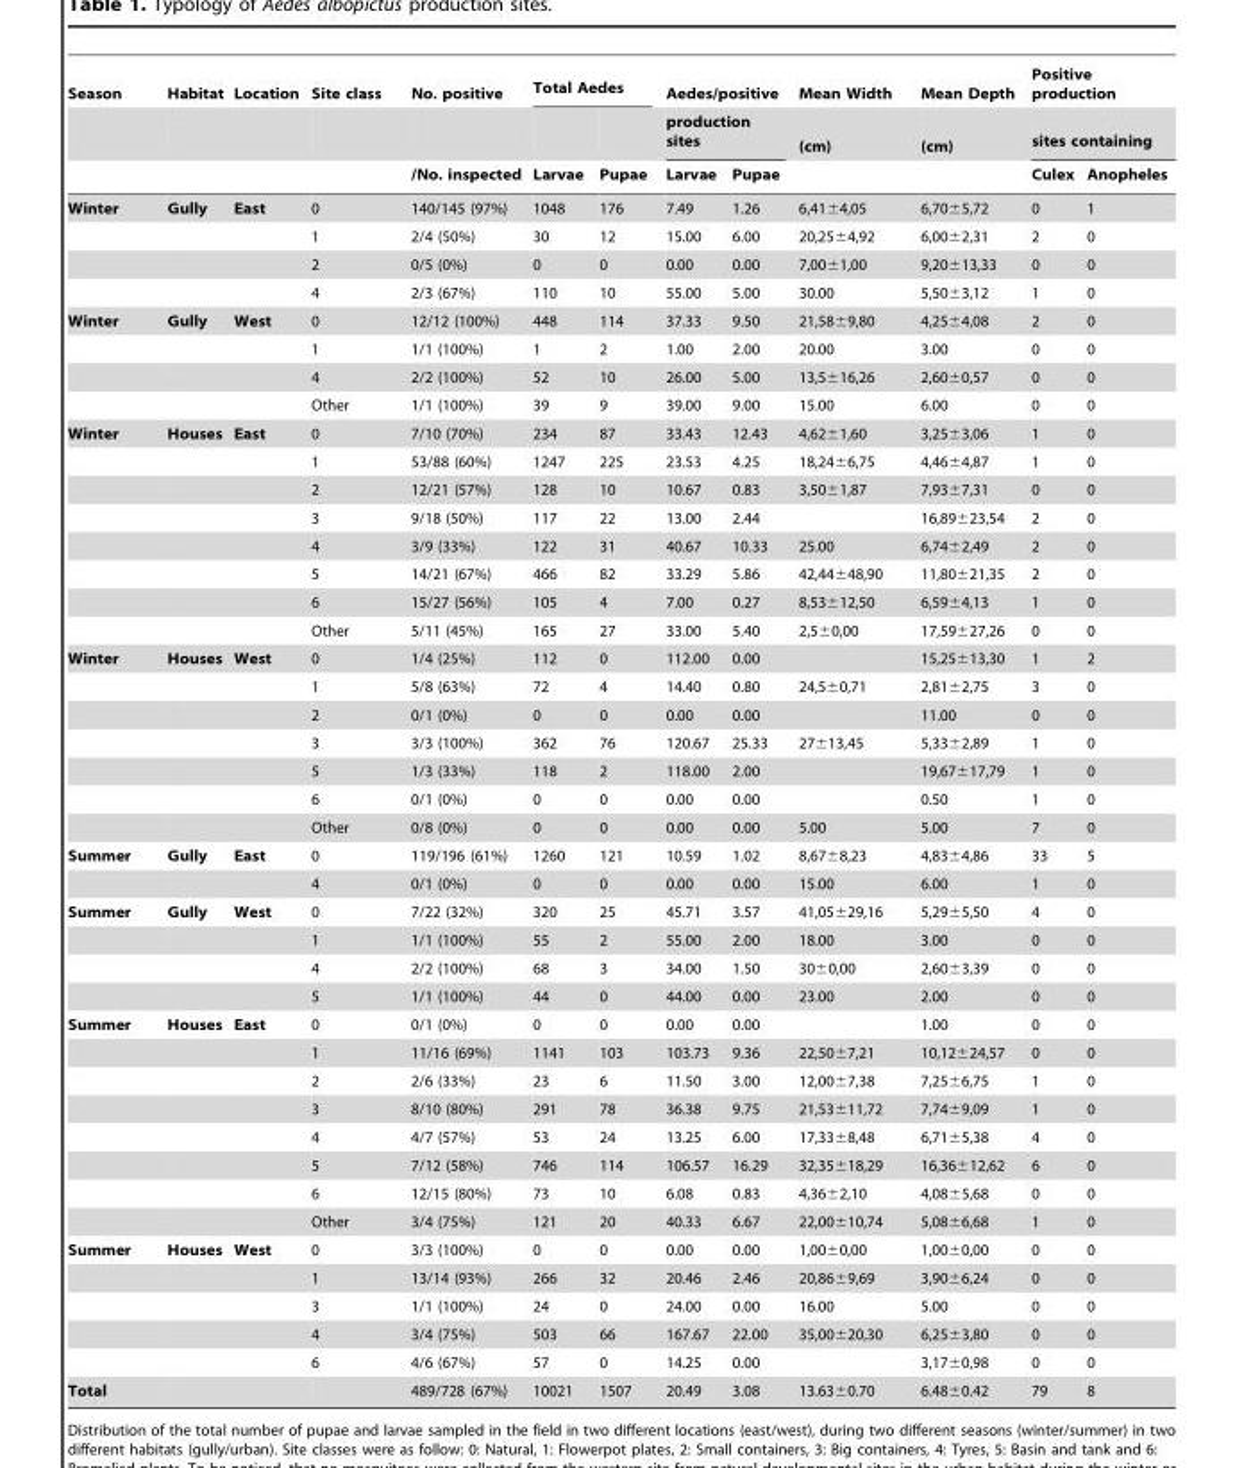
<table><thead><tr><td rowspan="3">Season</td><td rowspan="3">Habitat</td><td rowspan="3">Location</td><td rowspan="3">Site class</td><td rowspan="3">No. positive /No. inspected</td><td colspan="2">Total Aedes</td><td rowspan="2" colspan="2">Aedes/positive production sites</td><td rowspan="3">Mean Width (cm)</td><td rowspan="3">Mean Depth (cm)</td><td rowspan="2" colspan="2">Positive production sites containing</td></tr><tr><td rowspan="2">Larvae</td><td rowspan="2">Pupae</td></tr><tr><td>Larvae</td><td>Pupae</td><td>Culex</td><td>Anopheles</td></tr></thead><tbody><tr><td rowspan="4">Winter</td><td>Gully</td><td>East</td><td>0</td><td>140/145 (97%)</td><td>1048</td><td>176</td><td>7.49</td><td>1.26</td><td>6,41±4,05</td><td>6,70±5,72</td><td>0</td><td>1</td></tr><tr><td></td><td></td><td>1</td><td>2/4 (50%)</td><td>30</td><td>12</td><td>15.00</td><td>6.00</td><td>20,25±4,92</td><td>6,00±2,31</td><td>2</td><td>0</td></tr><tr><td></td><td></td><td>2</td><td>0/5 (0%)</td><td>0</td><td>0</td><td>0.00</td><td>0.00</td><td>7,00±1,00</td><td>9,20±13,33</td><td>0</td><td>0</td></tr><tr><td></td><td></td><td>4</td><td>2/3 (67%)</td><td>110</td><td>10</td><td>55.00</td><td>5.00</td><td>30.00</td><td>5,50±3,12</td><td>1</td><td>0</td></tr><tr><td rowspan="4">Winter</td><td>Gully</td><td>West</td><td>0</td><td>12/12 (100%)</td><td>448</td><td>114</td><td>37.33</td><td>9.50</td><td>21,58±9,80</td><td>4,25±4,08</td><td>2</td><td>0</td></tr><tr><td></td><td></td><td>1</td><td>1/1 (100%)</td><td>1</td><td>2</td><td>1.00</td><td>2.00</td><td>20.00</td><td>3.00</td><td>0</td><td>0</td></tr><tr><td></td><td></td><td>4</td><td>2/2 (100%)</td><td>52</td><td>10</td><td>26.00</td><td>5.00</td><td>13,5±16,26</td><td>2,60±0,57</td><td>0</td><td>0</td></tr><tr><td></td><td></td><td>Other</td><td>1/1 (100%)</td><td>39</td><td>9</td><td>39.00</td><td>9.00</td><td>15.00</td><td>6.00</td><td>0</td><td>0</td></tr><tr><td rowspan="8">Winter</td><td>Houses</td><td>East</td><td>0</td><td>7/10 (70%)</td><td>234</td><td>87</td><td>33.43</td><td>12.43</td><td>4,62±1,60</td><td>3,25±3,06</td><td>1</td><td>0</td></tr><tr><td></td><td></td><td>1</td><td>53/88 (60%)</td><td>1247</td><td>225</td><td>23.53</td><td>4.25</td><td>18,24±6,75</td><td>4,46±4,87</td><td>1</td><td>0</td></tr><tr><td></td><td></td><td>2</td><td>12/21 (57%)</td><td>128</td><td>10</td><td>10.67</td><td>0.83</td><td>3,50±1,87</td><td>7,93±7,31</td><td>0</td><td>0</td></tr><tr><td></td><td></td><td>3</td><td>9/18 (50%)</td><td>117</td><td>22</td><td>13.00</td><td>2.44</td><td></td><td>16,89±23,54</td><td>2</td><td>0</td></tr><tr><td></td><td></td><td>4</td><td>3/9 (33%)</td><td>122</td><td>31</td><td>40.67</td><td>10.33</td><td>25.00</td><td>6,74±2,49</td><td>2</td><td>0</td></tr><tr><td></td><td></td><td>5</td><td>14/21 (67%)</td><td>466</td><td>82</td><td>33.29</td><td>5.86</td><td>42,44±48,90</td><td>11,80±21,35</td><td>2</td><td>0</td></tr><tr><td></td><td></td><td>6</td><td>15/27 (56%)</td><td>105</td><td>4</td><td>7.00</td><td>0.27</td><td>8,53±12,50</td><td>6,59±4,13</td><td>1</td><td>0</td></tr><tr><td></td><td></td><td>Other</td><td>5/11 (45%)</td><td>165</td><td>27</td><td>33.00</td><td>5.40</td><td>2,5±0,00</td><td>17,59±27,26</td><td>0</td><td>0</td></tr><tr><td rowspan="7">Winter</td><td>Houses</td><td>West</td><td>0</td><td>1/4 (25%)</td><td>112</td><td>0</td><td>112.00</td><td>0.00</td><td></td><td>15,25±13,30</td><td>1</td><td>2</td></tr><tr><td></td><td></td><td>1</td><td>5/8 (63%)</td><td>72</td><td>4</td><td>14.40</td><td>0.80</td><td>24,5±0,71</td><td>2,81±2,75</td><td>3</td><td>0</td></tr><tr><td></td><td></td><td>2</td><td>0/1 (0%)</td><td>0</td><td>0</td><td>0.00</td><td>0.00</td><td></td><td>11.00</td><td>0</td><td>0</td></tr><tr><td></td><td></td><td>3</td><td>3/3 (100%)</td><td>362</td><td>76</td><td>120.67</td><td>25.33</td><td>27±13,45</td><td>5,33±2,89</td><td>1</td><td>0</td></tr><tr><td></td><td></td><td>5</td><td>1/3 (33%)</td><td>118</td><td>2</td><td>118.00</td><td>2.00</td><td></td><td>19,67±17,79</td><td>1</td><td>0</td></tr><tr><td></td><td></td><td>6</td><td>0/1 (0%)</td><td>0</td><td>0</td><td>0.00</td><td>0.00</td><td></td><td>0.50</td><td>1</td><td>0</td></tr><tr><td></td><td></td><td>Other</td><td>0/8 (0%)</td><td>0</td><td>0</td><td>0.00</td><td>0.00</td><td>5.00</td><td>5.00</td><td>7</td><td>0</td></tr><tr><td rowspan="2">Summer</td><td>Gully</td><td>East</td><td>0</td><td>119/196 (61%)</td><td>1260</td><td>121</td><td>10.59</td><td>1.02</td><td>8,67±8,23</td><td>4,83±4,86</td><td>33</td><td>5</td></tr><tr><td></td><td></td><td>4</td><td>0/1 (0%)</td><td>0</td><td>0</td><td>0.00</td><td>0.00</td><td>15.00</td><td>6.00</td><td>1</td><td>0</td></tr><tr><td rowspan="4">Summer</td><td>Gully</td><td>West</td><td>0</td><td>7/22 (32%)</td><td>320</td><td>25</td><td>45.71</td><td>3.57</td><td>41,05±29,16</td><td>5,29±5,50</td><td>4</td><td>0</td></tr><tr><td></td><td></td><td>1</td><td>1/1 (100%)</td><td>55</td><td>2</td><td>55.00</td><td>2.00</td><td>18.00</td><td>3.00</td><td>0</td><td>0</td></tr><tr><td></td><td></td><td>4</td><td>2/2 (100%)</td><td>68</td><td>3</td><td>34.00</td><td>1.50</td><td>30±0,00</td><td>2,60±3,39</td><td>0</td><td>0</td></tr><tr><td></td><td></td><td>5</td><td>1/1 (100%)</td><td>44</td><td>0</td><td>44.00</td><td>0.00</td><td>23.00</td><td>2.00</td><td>0</td><td>0</td></tr><tr><td rowspan="8">Summer</td><td>Houses</td><td>East</td><td>0</td><td>0/1 (0%)</td><td>0</td><td>0</td><td>0.00</td><td>0.00</td><td></td><td>1.00</td><td>0</td><td>0</td></tr><tr><td></td><td></td><td>1</td><td>11/16 (69%)</td><td>1141</td><td>103</td><td>103.73</td><td>9.36</td><td>22,50±7,21</td><td>10,12±24,57</td><td>0</td><td>0</td></tr><tr><td></td><td></td><td>2</td><td>2/6 (33%)</td><td>23</td><td>6</td><td>11.50</td><td>3.00</td><td>12,00±7,38</td><td>7,25±6,75</td><td>1</td><td>0</td></tr><tr><td></td><td></td><td>3</td><td>8/10 (80%)</td><td>291</td><td>78</td><td>36.38</td><td>9.75</td><td>21,53±11,72</td><td>7,74±9,09</td><td>1</td><td>0</td></tr><tr><td></td><td></td><td>4</td><td>4/7 (57%)</td><td>53</td><td>24</td><td>13.25</td><td>6.00</td><td>17,33±8,48</td><td>6,71±5,38</td><td>4</td><td>0</td></tr><tr><td></td><td></td><td>5</td><td>7/12 (58%)</td><td>746</td><td>114</td><td>106.57</td><td>16.29</td><td>32,35±18,29</td><td>16,36±12,62</td><td>6</td><td>0</td></tr><tr><td></td><td></td><td>6</td><td>12/15 (80%)</td><td>73</td><td>10</td><td>6.08</td><td>0.83</td><td>4,36±2,10</td><td>4,08±5,68</td><td>0</td><td>0</td></tr><tr><td></td><td></td><td>Other</td><td>3/4 (75%)</td><td>121</td><td>20</td><td>40.33</td><td>6.67</td><td>22,00±10,74</td><td>5,08±6,68</td><td>1</td><td>0</td></tr><tr><td rowspan="5">Summer</td><td>Houses</td><td>West</td><td>0</td><td>3/3 (100%)</td><td>0</td><td>0</td><td>0.00</td><td>0.00</td><td>1,00±0,00</td><td>1,00±0,00</td><td>0</td><td>0</td></tr><tr><td></td><td></td><td>1</td><td>13/14 (93%)</td><td>266</td><td>32</td><td>20.46</td><td>2.46</td><td>20,86±9,69</td><td>3,90±6,24</td><td>0</td><td>0</td></tr><tr><td></td><td></td><td>3</td><td>1/1 (100%)</td><td>24</td><td>0</td><td>24.00</td><td>0.00</td><td>16.00</td><td>5.00</td><td>0</td><td>0</td></tr><tr><td></td><td></td><td>4</td><td>3/4 (75%)</td><td>503</td><td>66</td><td>167.67</td><td>22.00</td><td>35,00±20,30</td><td>6,25±3,80</td><td>0</td><td>0</td></tr><tr><td></td><td></td><td>6</td><td>4/6 (67%)</td><td>57</td><td>0</td><td>14.25</td><td>0.00</td><td></td><td>3,17±0,98</td><td>0</td><td>0</td></tr><tr><td>Total</td><td></td><td></td><td></td><td>489/728 (67%)</td><td>10021</td><td>1507</td><td>20.49</td><td>3.08</td><td>13.63±0.70</td><td>6.48±0.42</td><td>79</td><td>8</td></tr></tbody></table>